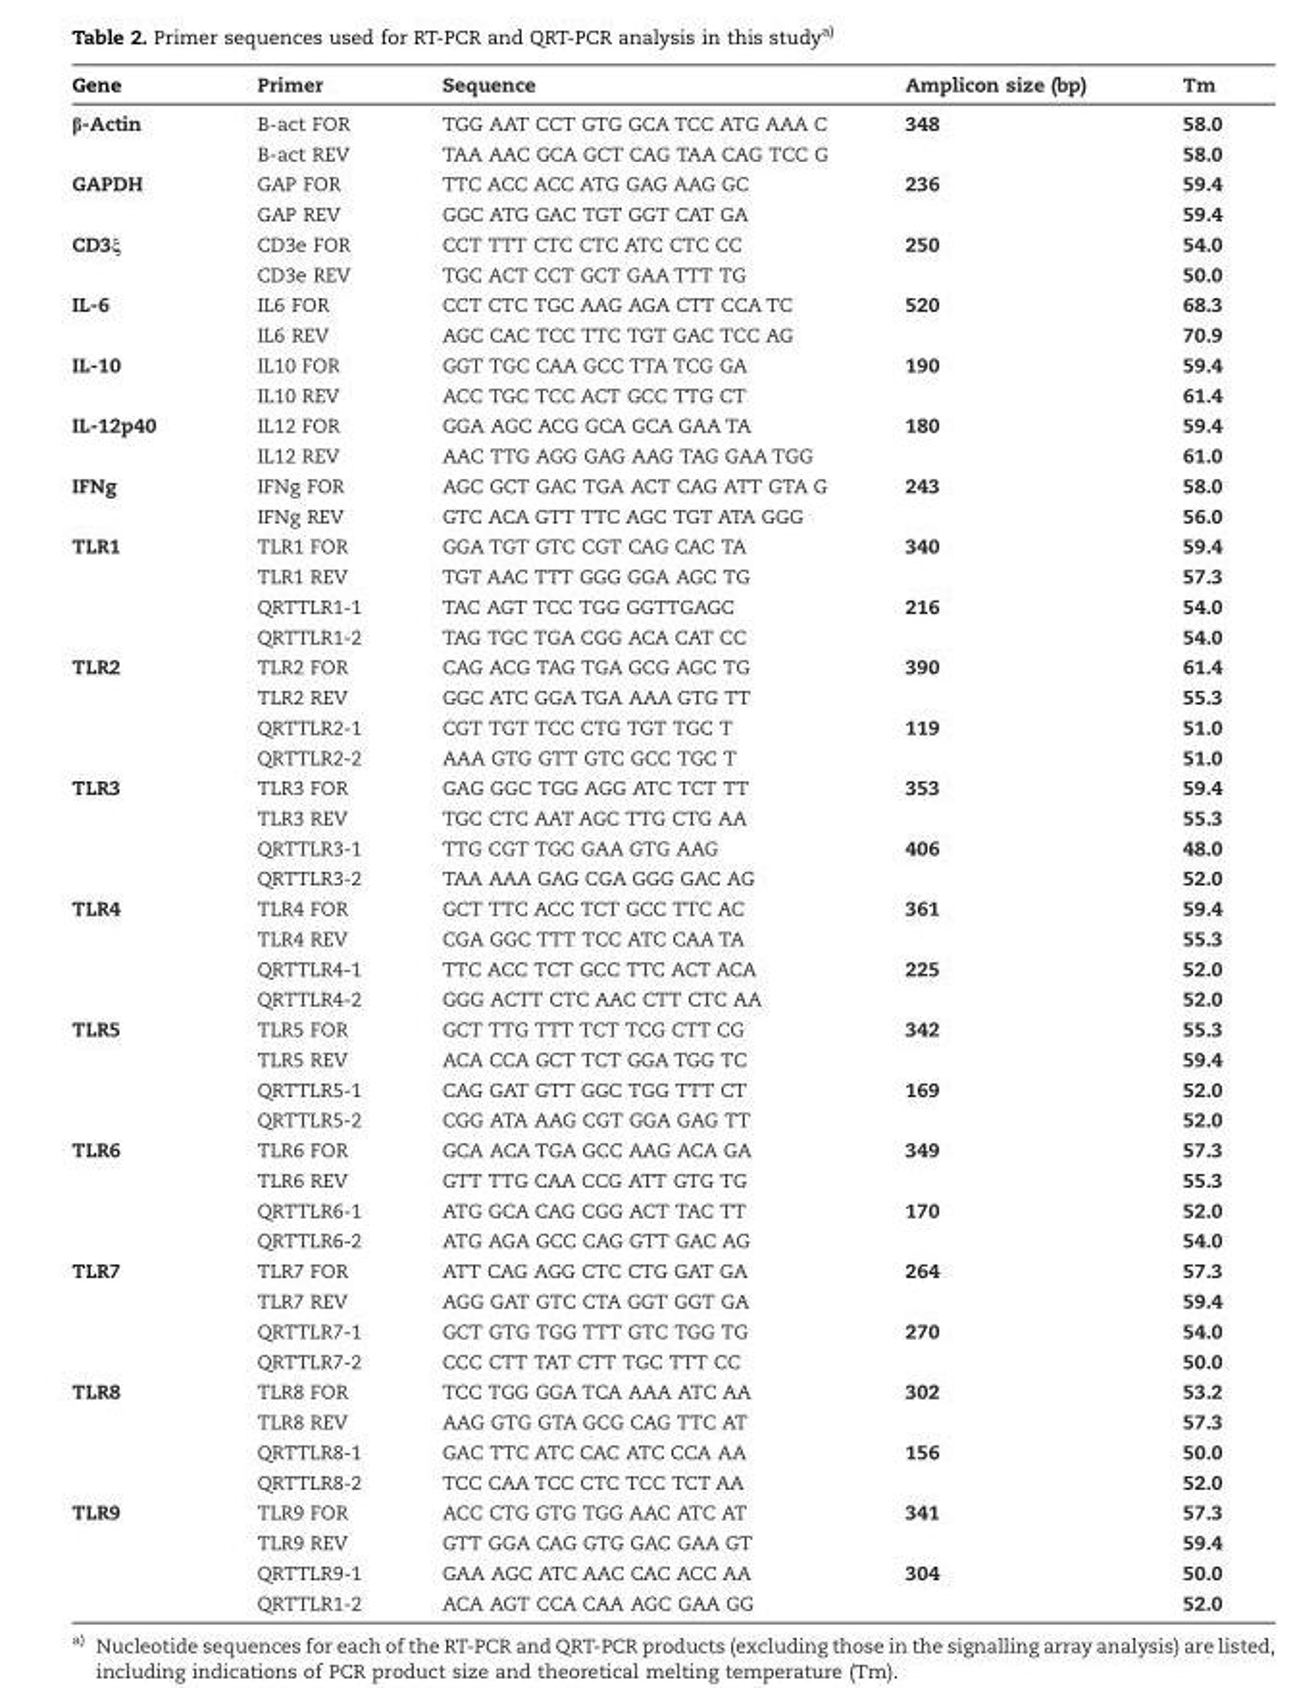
<table><thead><tr><td>Gene</td><td>Primer</td><td>Sequence</td><td>Amplicon size (bp)</td><td>Tm</td></tr></thead><tbody><tr><td rowspan="2">β-Actin</td><td>B-act FOR</td><td>TGG AAT CCT GTG GCA TCC ATG AAA C</td><td>348</td><td>58.0</td></tr><tr><td>B-act REV</td><td>TAA AAC GCA GCT CAG TAA CAG TCC G</td><td></td><td>58.0</td></tr><tr><td rowspan="2">GAPDH</td><td>GAP FOR</td><td>TTC ACC ACC ATG GAG AAG GC</td><td>236</td><td>59.4</td></tr><tr><td>GAP REV</td><td>GGC ATG GAC TGT GGT CAT GA</td><td></td><td>59.4</td></tr><tr><td rowspan="2">CD3ξ</td><td>CD3e FOR</td><td>CCT TTT CTC CTC ATC CTC CC</td><td>250</td><td>54.0</td></tr><tr><td>CD3e REV</td><td>TGC ACT CCT GCT GAA TTT TG</td><td></td><td>50.0</td></tr><tr><td rowspan="2">IL-6</td><td>IL6 FOR</td><td>CCT CTC TGC AAG AGA CTT CCA TC</td><td>520</td><td>68.3</td></tr><tr><td>IL6 REV</td><td>AGC CAC TCC TTC TGT GAC TCC AG</td><td></td><td>70.9</td></tr><tr><td rowspan="2">IL-10</td><td>IL10 FOR</td><td>GGT TGC CAA GCC TTA TCG GA</td><td>190</td><td>59.4</td></tr><tr><td>IL10 REV</td><td>ACC TGC TCC ACT GCC TTG CT</td><td></td><td>61.4</td></tr><tr><td rowspan="2">IL-12p40</td><td>IL12 FOR</td><td>GGA AGC ACG GCA GCA GAA TA</td><td>180</td><td>59.4</td></tr><tr><td>IL12 REV</td><td>AAC TTG AGG GAG AAG TAG GAA TGG</td><td></td><td>61.0</td></tr><tr><td rowspan="2">IFNg</td><td>IFNg FOR</td><td>AGC GCT GAC TGA ACT CAG ATT GTA G</td><td>243</td><td>58.0</td></tr><tr><td>IFNg REV</td><td>GTC ACA GTT TTC AGC TGT ATA GGG</td><td></td><td>56.0</td></tr><tr><td rowspan="4">TLR1</td><td>TLR1 FOR</td><td>GGA TGT GTC CGT CAG CAC TA</td><td>340</td><td>59.4</td></tr><tr><td>TLR1 REV</td><td>TGT AAC TTT GGG GGA AGC TG</td><td></td><td>57.3</td></tr><tr><td>QRTTLR1-1</td><td>TAC AGT TCC TGG GGTTGAGC</td><td>216</td><td>54.0</td></tr><tr><td>QRTTLR1-2</td><td>TAG TGC TGA CGG ACA CAT CC</td><td></td><td>54.0</td></tr><tr><td rowspan="4">TLR2</td><td>TLR2 FOR</td><td>CAG ACG TAG TGA GCG AGC TG</td><td>390</td><td>61.4</td></tr><tr><td>TLR2 REV</td><td>GGC ATC GGA TGA AAA GTG TT</td><td></td><td>55.3</td></tr><tr><td>QRTTLR2-1</td><td>CGT TGT TCC CTG TGT TGC T</td><td>119</td><td>51.0</td></tr><tr><td>QRTTLR2-2</td><td>AAA GTG GTT GTC GCC TGC T</td><td></td><td>51.0</td></tr><tr><td rowspan="4">TLR3</td><td>TLR3 FOR</td><td>GAG GGC TGG AGG ATC TCT TT</td><td>353</td><td>59.4</td></tr><tr><td>TLR3 REV</td><td>TGC CTC AAT AGC TTG CTG AA</td><td></td><td>55.3</td></tr><tr><td>QRTTLR3-1</td><td>TTG CGT TGC GAA GTG AAG</td><td>406</td><td>48.0</td></tr><tr><td>QRTTLR3-2</td><td>TAA AAA GAG CGA GGG GAC AG</td><td></td><td>52.0</td></tr><tr><td rowspan="4">TLR4</td><td>TLR4 FOR</td><td>GCT TTC ACC TCT GCC TTC AC</td><td>361</td><td>59.4</td></tr><tr><td>TLR4 REV</td><td>CGA GGC TTT TCC ATC CAA TA</td><td></td><td>55.3</td></tr><tr><td>QRTTLR4-1</td><td>TTC ACC TCT GCC TTC ACT ACA</td><td>225</td><td>52.0</td></tr><tr><td>QRTTLR4-2</td><td>GGG ACTT CTC AAC CTT CTC AA</td><td></td><td>52.0</td></tr><tr><td rowspan="4">TLR5</td><td>TLR5 FOR</td><td>GCT TTG TTT TCT TCG CTT CG</td><td>342</td><td>55.3</td></tr><tr><td>TLR5 REV</td><td>ACA CCA GCT TCT GGA TGG TC</td><td></td><td>59.4</td></tr><tr><td>QRTTLR5-1</td><td>CAG GAT GTT GGC TGG TTT CT</td><td>169</td><td>52.0</td></tr><tr><td>QRTTLR5-2</td><td>CGG ATA AAG CGT GGA GAG TT</td><td></td><td>52.0</td></tr><tr><td rowspan="4">TLR6</td><td>TLR6 FOR</td><td>GCA ACA TGA GCC AAG ACA GA</td><td>349</td><td>57.3</td></tr><tr><td>TLR6 REV</td><td>GTT TTG CAA CCG ATT GTG TG</td><td></td><td>55.3</td></tr><tr><td>QRTTLR6-1</td><td>ATG GCA CAG CGG ACT TAC TT</td><td>170</td><td>52.0</td></tr><tr><td>QRTTLR6-2</td><td>ATG AGA GCC CAG GTT GAC AG</td><td></td><td>54.0</td></tr><tr><td rowspan="4">TLR7</td><td>TLR7 FOR</td><td>ATT CAG AGG CTC CTG GAT GA</td><td>264</td><td>57.3</td></tr><tr><td>TLR7 REV</td><td>AGG GAT GTC CTA GGT GGT GA</td><td></td><td>59.4</td></tr><tr><td>QRTTLR7-1</td><td>GCT GTG TGG TTT GTC TGG TG</td><td>270</td><td>54.0</td></tr><tr><td>QRTTLR7-2</td><td>CCC CTT TAT CTT TGC TTT CC</td><td></td><td>50.0</td></tr><tr><td rowspan="4">TLR8</td><td>TLR8 FOR</td><td>TCC TGG GGA TCA AAA ATC AA</td><td>302</td><td>53.2</td></tr><tr><td>TLR8 REV</td><td>AAG GTG GTA GCG CAG TTC AT</td><td></td><td>57.3</td></tr><tr><td>QRTTLR8-1</td><td>GAC TTC ATC CAC ATC CCA AA</td><td>156</td><td>50.0</td></tr><tr><td>QRTTLR8-2</td><td>TCC CAA TCC CTC TCC TCT AA</td><td></td><td>52.0</td></tr><tr><td rowspan="4">TLR9</td><td>TLR9 FOR</td><td>ACC CTG GTG TGG AAC ATC AT</td><td>341</td><td>57.3</td></tr><tr><td>TLR9 REV</td><td>GTT GGA CAG GTG GAC GAA GT</td><td></td><td>59.4</td></tr><tr><td>QRTTLR9-1</td><td>GAA AGC ATC AAC CAC ACC AA</td><td>304</td><td>50.0</td></tr><tr><td>QRTTLR1-2</td><td>ACA AGT CCA CAA AGC GAA GG</td><td></td><td>52.0</td></tr></tbody></table>